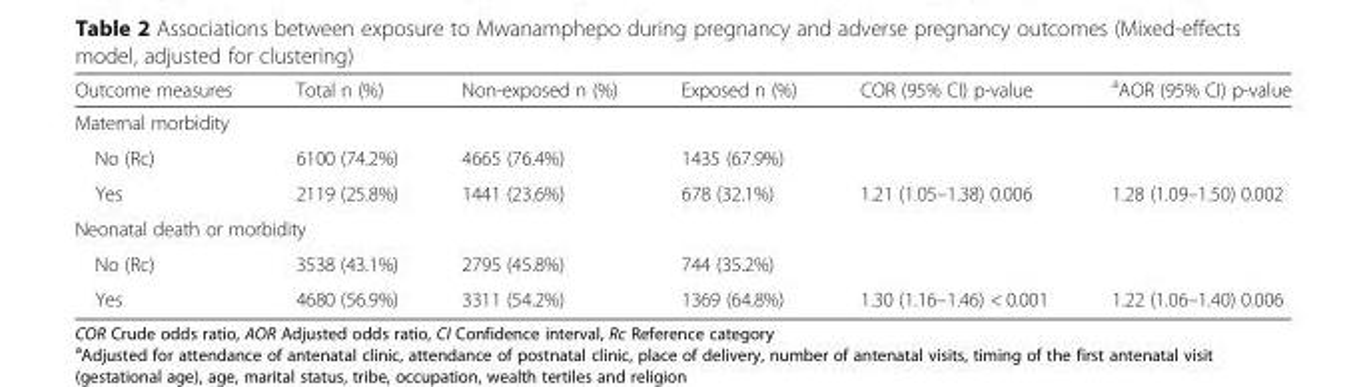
<table><thead><tr><td>Outcome measures</td><td>Total n (%)</td><td>Non-exposed n (%)</td><td>Exposed n (%)</td><td>COR (95% CI) p-value</td><td><sup>a</sup>AOR (95% CI) p-value</td></tr></thead><tbody><tr><td colspan="6">Maternal morbidity</td></tr><tr><td>No (Rc)</td><td>6100 (74.2%)</td><td>4665 (76.4%)</td><td>1435 (67.9%)</td><td></td><td></td></tr><tr><td>Yes</td><td>2119 (25.8%)</td><td>1441 (23.6%)</td><td>678 (32.1%)</td><td>1.21 (1.05–1.38) 0.006</td><td>1.28 (1.09–1.50) 0.002</td></tr><tr><td colspan="6">Neonatal death or morbidity</td></tr><tr><td>No (Rc)</td><td>3538 (43.1%)</td><td>2795 (45.8%)</td><td>744 (35.2%)</td><td></td><td></td></tr><tr><td>Yes</td><td>4680 (56.9%)</td><td>3311 (54.2%)</td><td>1369 (64.8%)</td><td>1.30 (1.16–1.46) &lt; 0.001</td><td>1.22 (1.06–1.40) 0.006</td></tr></tbody></table>